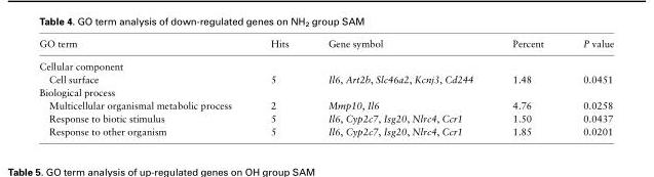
<table><thead><tr><td>GO term</td><td>Hits</td><td>Gene symbol</td><td>Percent</td><td>P value</td></tr></thead><tbody><tr><td colspan="5">Cellular component</td></tr><tr><td>Cell surface</td><td>5</td><td>Il6, Art2b, Slc46a2, Kcnj3, Cd244</td><td>1.48</td><td>0.0451</td></tr><tr><td colspan="5">Biological process</td></tr><tr><td>Multicellular organismal metabolic process</td><td>2</td><td>Mmp10, Il6</td><td>4.76</td><td>0.0258</td></tr><tr><td>Response to biotic stimulus</td><td>5</td><td>Il6, Cyp2c7, Isg20, Nlrc4, Ccr1</td><td>1.50</td><td>0.0437</td></tr><tr><td>Response to other organism</td><td>5</td><td>Il6, Cyp2c7, Isg20, Nlrc4, Ccr1</td><td>1.85</td><td>0.0201</td></tr></tbody></table>